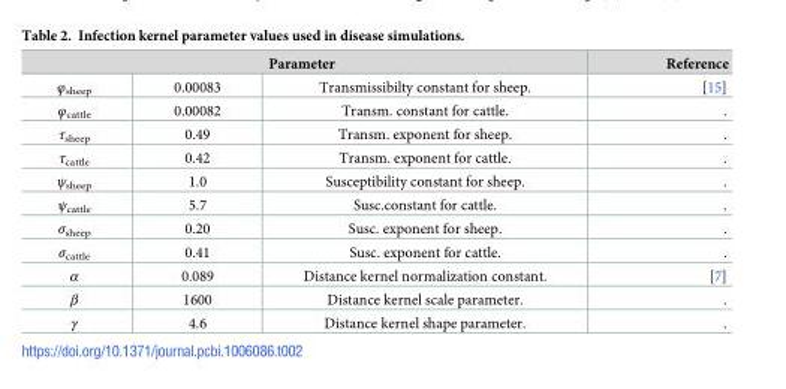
<table><thead><tr><td colspan="3">Parameter</td><td rowspan="2">Reference [15]</td></tr><tr><td>φ<sub>sheep</sub></td><td>0.00083</td><td>Transmissibilty constant for sheep.</td></tr></thead><tbody><tr><td>φ<sub>cattle</sub></td><td>0.00082</td><td>Transm. constant for cattle.</td><td>.</td></tr><tr><td>τ<sub>sheep</sub></td><td>0.49</td><td>Transm. exponent for sheep.</td><td>.</td></tr><tr><td>τ<sub>cattle</sub></td><td>0.42</td><td>Transm. exponent for cattle.</td><td>.</td></tr><tr><td>ψ<sub>sheep</sub></td><td>1.0</td><td>Susceptibility constant for sheep.</td><td>.</td></tr><tr><td>ψ<sub>cattle</sub></td><td>5.7</td><td>Susc.constant for cattle.</td><td>.</td></tr><tr><td>σ<sub>sheep</sub></td><td>0.20</td><td>Susc. exponent for sheep.</td><td>.</td></tr><tr><td>σ<sub>cattle</sub></td><td>0.41</td><td>Susc. exponent for cattle.</td><td>.</td></tr><tr><td>α</td><td>0.089</td><td>Distance kernel normalization constant.</td><td>[7]</td></tr><tr><td>β</td><td>1600</td><td>Distance kernel scale parameter.</td><td>.</td></tr><tr><td>γ</td><td>4.6</td><td>Distance kernel shape parameter.</td><td>.</td></tr></tbody></table>